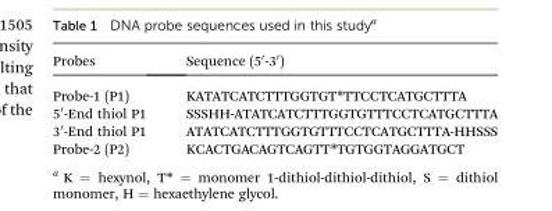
<table><thead><tr><td>Probes</td><td>Sequence (5′-3′)</td></tr></thead><tbody><tr><td>Probe-1 (P1)</td><td>KATATCATCTTTGGTGT*TTCCTCATGCTTTA</td></tr><tr><td>5′-End thiol P1</td><td>SSSHH-ATATCATCTTTGGTGTTTCCTCATGCTTTA</td></tr><tr><td>3′-End thiol P1</td><td>ATATCATCTTTGGTGTTTCCTCATGCTTTA-HHSSS</td></tr><tr><td>Probe-2 (P2)</td><td>KCACTGACAGTCAGTT*TGTGGTAGGATGCT</td></tr></tbody></table>